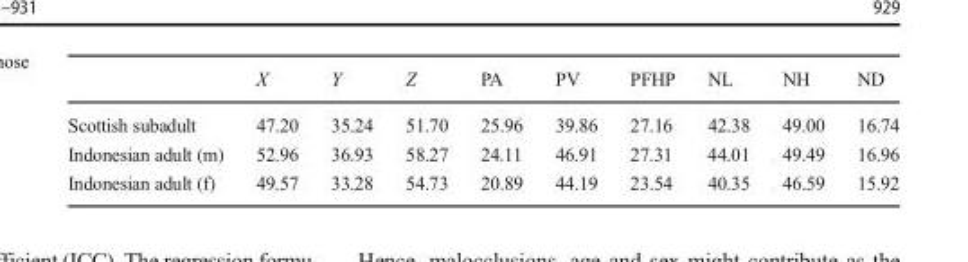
<table><thead><tr><td></td><td>X</td><td>Y</td><td>Z</td><td>PA</td><td>PV</td><td>PFHP</td><td>NL</td><td>NH</td><td>ND</td></tr></thead><tbody><tr><td>Scottish subadult</td><td>47.20</td><td>35.24</td><td>51.70</td><td>25.96</td><td>39.86</td><td>27.16</td><td>42.38</td><td>49.00</td><td>16.74</td></tr><tr><td>Indonesian adult (m)</td><td>52.96</td><td>36.93</td><td>58.27</td><td>24.11</td><td>46.91</td><td>27.31</td><td>44.01</td><td>49.49</td><td>16.96</td></tr><tr><td>Indonesian adult (f)</td><td>49.57</td><td>33.28</td><td>54.73</td><td>20.89</td><td>44.19</td><td>23.54</td><td>40.35</td><td>46.59</td><td>15.92</td></tr></tbody></table>